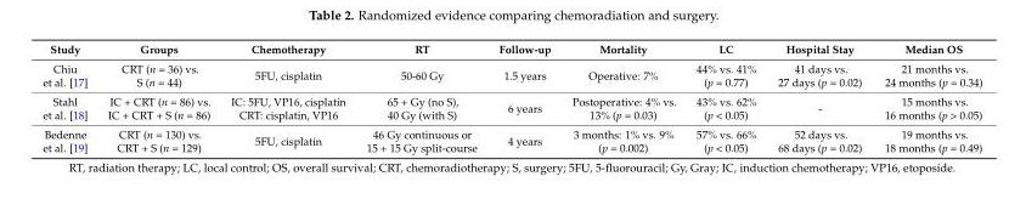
<table><thead><tr><td>Study</td><td>Groups</td><td>Chemotherapy</td><td>RT</td><td>Follow-up</td><td>Mortality</td><td>LC</td><td>Hospital Stay</td><td>Median OS</td></tr></thead><tbody><tr><td>Chiu et al. [17]</td><td>CRT (n = 36) vs. S (n = 44)</td><td>5FU, cisplatin</td><td>50-60 Gy</td><td>1.5 years</td><td>Operative: 7%</td><td>44% vs. 41% (p = 0.77)</td><td>41 days vs. 27 days (p = 0.02)</td><td>21 months vs. 24 months (p = 0.34)</td></tr><tr><td>Stahl et al. [18]</td><td>IC + CRT (n = 86) vs. IC + CRT + S (n = 86)</td><td>IC: 5FU, VP16, cisplatin CRT: cisplatin, VP16</td><td>65 + Gy (no S), 40 Gy (with S)</td><td>6 years</td><td>Postoperative: 4% vs. 13% (p = 0.03)</td><td>43% vs. 62% (p &lt; 0.05)</td><td>-</td><td>15 months vs. 16 months (p &gt; 0.05)</td></tr><tr><td>Bedenne et al. [19]</td><td>CRT (n = 130) vs. CRT + S (n = 129)</td><td>5FU, cisplatin</td><td>46 Gy continuous or 15 + 15 Gy split-course</td><td>4 years</td><td>3 months: 1% vs. 9% (p = 0.002)</td><td>57% vs. 66% (p &lt; 0.05)</td><td>52 days vs. 68 days (p = 0.02)</td><td>19 months vs. 18 months (p = 0.49)</td></tr></tbody></table>